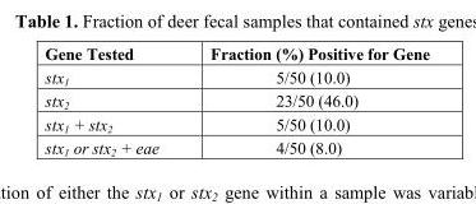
<table><thead><tr><td>Gene Tested</td><td>Fraction (%) Positive for Gene</td></tr></thead><tbody><tr><td>stx<sub>1</sub></td><td>5/50 (10.0)</td></tr><tr><td>stx<sub>2</sub></td><td>23/50 (46.0)</td></tr><tr><td>stx<sub>1</sub> + stx<sub>2</sub></td><td>5/50 (10.0)</td></tr><tr><td>stx<sub>1</sub> or stx<sub>2</sub> + eae</td><td>4/50 (8.0)</td></tr></tbody></table>